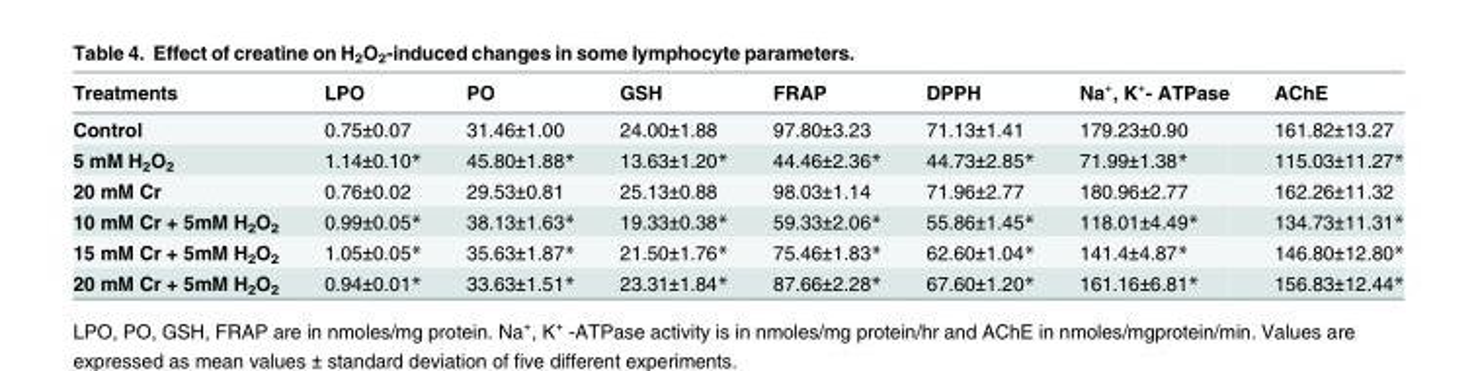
<table><thead><tr><td>Treatments</td><td>LPO</td><td>PO</td><td>GSH</td><td>FRAP</td><td>DPPH</td><td>Na⁺, K⁺- ATPase</td><td>AChE</td></tr></thead><tbody><tr><td>Control</td><td>0.75±0.07</td><td>31.46±1.00</td><td>24.00±1.88</td><td>97.80±3.23</td><td>71.13±1.41</td><td>179.23±0.90</td><td>161.82±13.27</td></tr><tr><td>5 mM H<sub>2</sub>O<sub>2</sub></td><td>1.14±0.10*</td><td>45.80±1.88*</td><td>13.63±1.20*</td><td>44.46±2.36*</td><td>44.73±2.85*</td><td>71.99±1.38*</td><td>115.03±11.27*</td></tr><tr><td>20 mM Cr</td><td>0.76±0.02</td><td>29.53±0.81</td><td>25.13±0.88</td><td>98.03±1.14</td><td>71.96±2.77</td><td>180.96±2.77</td><td>162.26±11.32</td></tr><tr><td>10 mM Cr + 5mM H<sub>2</sub>O<sub>2</sub></td><td>0.99±0.05*</td><td>38.13±1.63*</td><td>19.33±0.38*</td><td>59.33±2.06*</td><td>55.86±1.45*</td><td>118.01±4.49*</td><td>134.73±11.31*</td></tr><tr><td>15 mM Cr + 5mM H<sub>2</sub>O<sub>2</sub></td><td>1.05±0.05*</td><td>35.63±1.87*</td><td>21.50±1.76*</td><td>75.46±1.83*</td><td>62.60±1.04*</td><td>141.4±4.87*</td><td>146.80±12.80*</td></tr><tr><td>20 mM Cr + 5mM H<sub>2</sub>O<sub>2</sub></td><td>0.94±0.01*</td><td>33.63±1.51*</td><td>23.31±1.84*</td><td>87.66±2.28*</td><td>67.60±1.20*</td><td>161.16±6.81*</td><td>156.83±12.44*</td></tr></tbody></table>